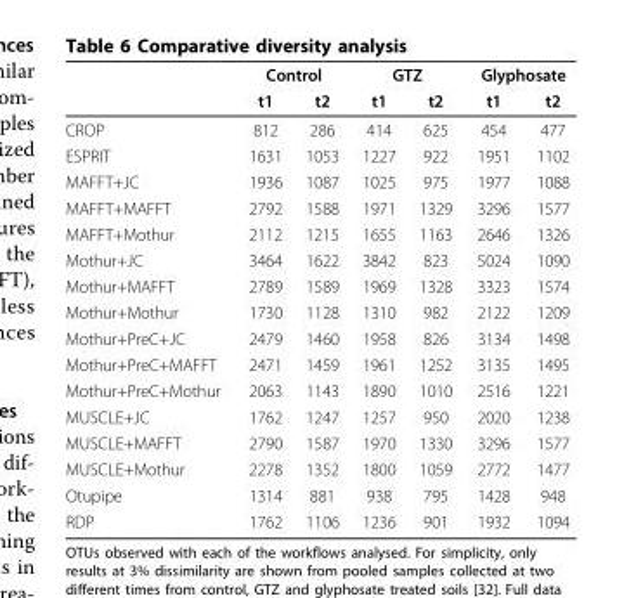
<table><thead><tr><td rowspan="2"></td><td colspan="2">Control</td><td colspan="2">GTZ</td><td colspan="2">Glyphosate</td></tr><tr><td>t1</td><td>t2</td><td>t1</td><td>t2</td><td>t1</td><td>t2</td></tr></thead><tbody><tr><td>CROP</td><td>812</td><td>286</td><td>414</td><td>625</td><td>454</td><td>477</td></tr><tr><td>ESPRIT</td><td>1631</td><td>1053</td><td>1227</td><td>922</td><td>1951</td><td>1102</td></tr><tr><td>MAFFT+JC</td><td>1936</td><td>1087</td><td>1025</td><td>975</td><td>1977</td><td>1088</td></tr><tr><td>MAFFT+MAFFT</td><td>2792</td><td>1588</td><td>1971</td><td>1329</td><td>3296</td><td>1577</td></tr><tr><td>MAFFT+Mothur</td><td>2112</td><td>1215</td><td>1655</td><td>1163</td><td>2646</td><td>1326</td></tr><tr><td>Mothur+JC</td><td>3464</td><td>1622</td><td>3842</td><td>823</td><td>5024</td><td>1090</td></tr><tr><td>Mothur+MAFFT</td><td>2789</td><td>1589</td><td>1969</td><td>1328</td><td>3323</td><td>1574</td></tr><tr><td>Mothur+Mothur</td><td>1730</td><td>1128</td><td>1310</td><td>982</td><td>2122</td><td>1209</td></tr><tr><td>Mothur+PreC+JC</td><td>2479</td><td>1460</td><td>1958</td><td>826</td><td>3134</td><td>1498</td></tr><tr><td>Mothur+PreC+MAFFT</td><td>2471</td><td>1459</td><td>1961</td><td>1252</td><td>3135</td><td>1495</td></tr><tr><td>Mothur+PreC+Mothur</td><td>2063</td><td>1143</td><td>1890</td><td>1010</td><td>2516</td><td>1221</td></tr><tr><td>MUSCLE+JC</td><td>1762</td><td>1247</td><td>1257</td><td>950</td><td>2020</td><td>1238</td></tr><tr><td>MUSCLE+MAFFT</td><td>2790</td><td>1587</td><td>1970</td><td>1330</td><td>3296</td><td>1577</td></tr><tr><td>MUSCLE+Mothur</td><td>2278</td><td>1352</td><td>1800</td><td>1059</td><td>2772</td><td>1477</td></tr><tr><td>Otupipe</td><td>1314</td><td>881</td><td>938</td><td>795</td><td>1428</td><td>948</td></tr><tr><td>RDP</td><td>1762</td><td>1106</td><td>1236</td><td>901</td><td>1932</td><td>1094</td></tr></tbody></table>